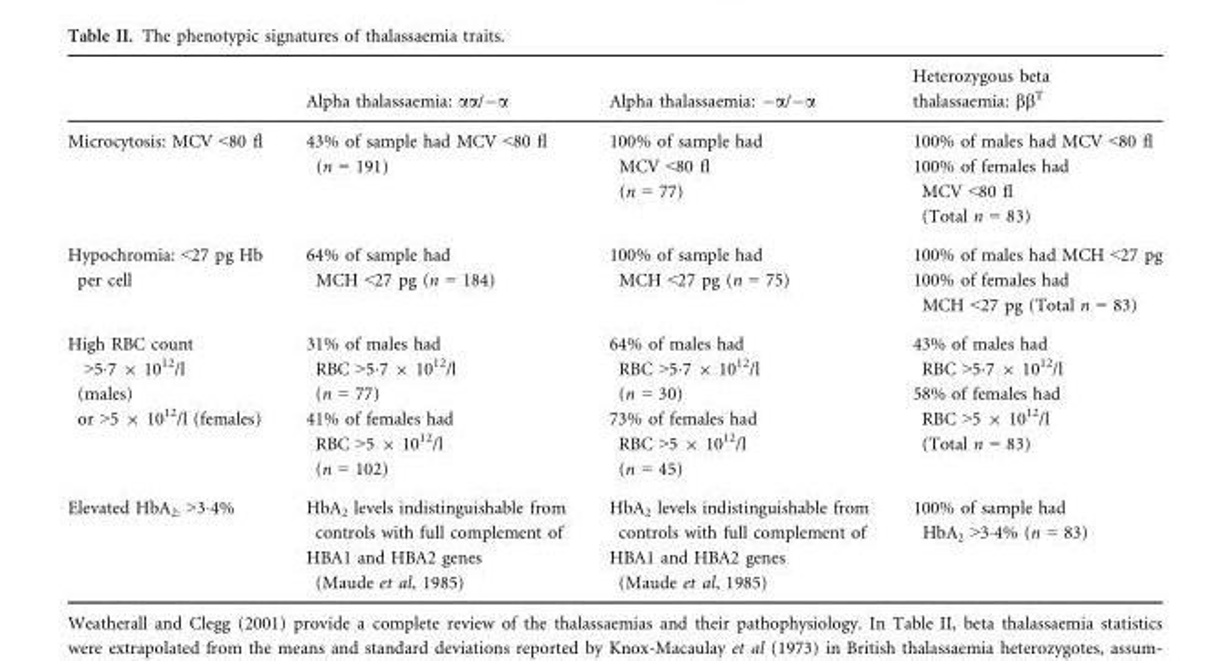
<table><thead><tr><td></td><td>Alpha thalassaemia: αα/−α</td><td>Alpha thalassaemia: −α/−α</td><td>Heterozygous beta thalassaemia: ββ<sup>T</sup></td></tr></thead><tbody><tr><td>Microcytosis: MCV &lt;80 fl</td><td>43% of sample had MCV &lt;80 fl (n = 191)</td><td>100% of sample had MCV &lt;80 fl (n = 77)</td><td>100% of males had MCV &lt;80 fl 100% of females had MCV &lt;80 fl (Total n = 83)</td></tr><tr><td>Hypochromia: &lt;27 pg Hb per cell</td><td>64% of sample had MCH &lt;27 pg (n = 184)</td><td>100% of sample had MCH &lt;27 pg (n = 75)</td><td>100% of males had MCH &lt;27 pg 100% of females had MCH &lt;27 pg (Total n = 83)</td></tr><tr><td>High RBC count &gt;5·7 × 10<sup>12</sup>/l (males) or &gt;5 × 10<sup>12</sup>/l (females)</td><td>31% of males had RBC &gt;5·7 × 10<sup>12</sup>/l (n = 77) 41% of females had RBC &gt;5 × 10<sup>12</sup>/l (n = 102)</td><td>64% of males had RBC &gt;5·7 × 10<sup>12</sup>/l (n = 30) 73% of females had RBC &gt;5 × 10<sup>12</sup>/l (n = 45)</td><td>43% of males had RBC &gt;5·7 × 10<sup>12</sup>/l 58% of females had RBC &gt;5 × 10<sup>12</sup>/l (Total n = 83)</td></tr><tr><td>Elevated HbA<sub>2:</sub> &gt;3·4%</td><td>HbA<sub>2</sub> levels indistinguishable from controls with full complement of HBA1 and HBA2 genes (Maude et al, 1985)</td><td>HbA<sub>2</sub> levels indistinguishable from controls with full complement of HBA1 and HBA2 genes (Maude et al, 1985)</td><td>100% of sample had HbA<sub>2</sub> &gt;3·4% (n = 83)</td></tr></tbody></table>